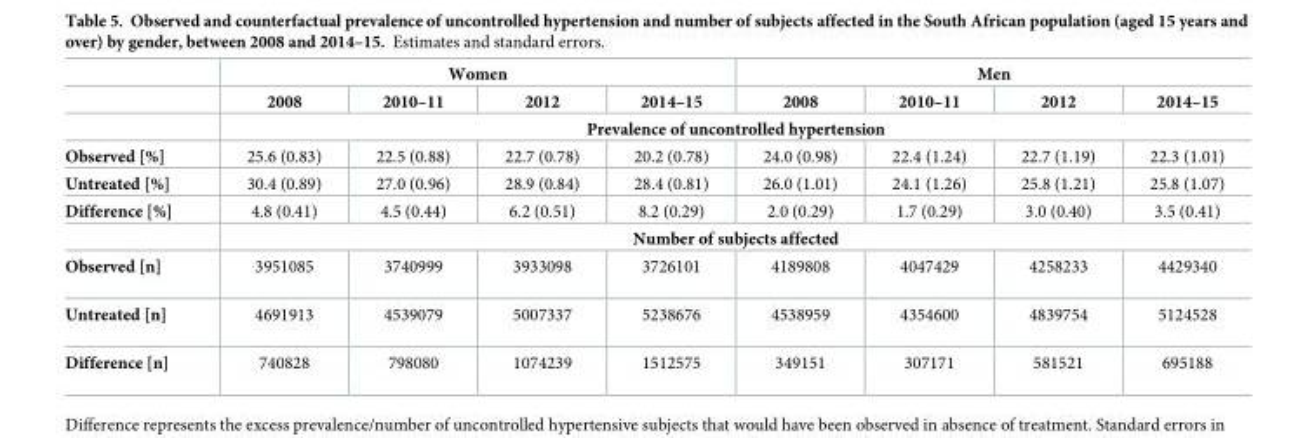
<table><thead><tr><td rowspan="2"></td><td colspan="4">Women</td><td colspan="4">Men</td></tr><tr><td>2008</td><td>2010–11</td><td>2012</td><td>2014–15</td><td>2008</td><td>2010–11</td><td>2012</td><td>2014–15</td></tr></thead><tbody><tr><td></td><td colspan="8">Prevalence of uncontrolled hypertension</td></tr><tr><td>Observed [%]</td><td>25.6 (0.83)</td><td>22.5 (0.88)</td><td>22.7 (0.78)</td><td>20.2 (0.78)</td><td>24.0 (0.98)</td><td>22.4 (1.24)</td><td>22.7 (1.19)</td><td>22.3 (1.01)</td></tr><tr><td>Untreated [%]</td><td>30.4 (0.89)</td><td>27.0 (0.96)</td><td>28.9 (0.84)</td><td>28.4 (0.81)</td><td>26.0 (1.01)</td><td>24.1 (1.26)</td><td>25.8 (1.21)</td><td>25.8 (1.07)</td></tr><tr><td rowspan="2">Difference [%]</td><td>4.8 (0.41)</td><td>4.5 (0.44)</td><td>6.2 (0.51)</td><td>8.2 (0.29)</td><td>2.0 (0.29)</td><td>1.7 (0.29)</td><td>3.0 (0.40)</td><td>3.5 (0.41)</td></tr><tr><td colspan="8">Number of subjects affected</td></tr><tr><td>Observed [n]</td><td>3951085</td><td>3740999</td><td>3933098</td><td>3726101</td><td>4189808</td><td>4047429</td><td>4258233</td><td>4429340</td></tr><tr><td>Untreated [n]</td><td>4691913</td><td>4539079</td><td>5007337</td><td>5238676</td><td>4538959</td><td>4354600</td><td>4839754</td><td>5124528</td></tr><tr><td>Difference [n]</td><td>740828</td><td>798080</td><td>1074239</td><td>1512575</td><td>349151</td><td>307171</td><td>581521</td><td>695188</td></tr></tbody></table>